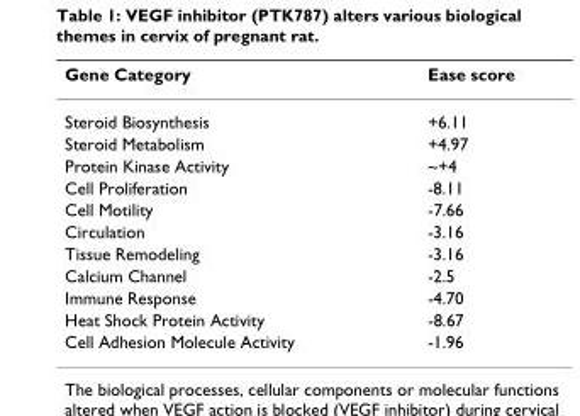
<table><thead><tr><td>Gene Category</td><td>Ease score</td></tr></thead><tbody><tr><td>Steroid Biosynthesis</td><td>+6.11</td></tr><tr><td>Steroid Metabolism</td><td>+4.97</td></tr><tr><td>Protein Kinase Activity</td><td>~+4</td></tr><tr><td>Cell Proliferation</td><td>-8.11</td></tr><tr><td>Cell Motility</td><td>-7.66</td></tr><tr><td>Circulation</td><td>-3.16</td></tr><tr><td>Tissue Remodeling</td><td>-3.16</td></tr><tr><td>Calcium Channel</td><td>-2.5</td></tr><tr><td>Immune Response</td><td>-4.70</td></tr><tr><td>Heat Shock Protein Activity</td><td>-8.67</td></tr><tr><td>Cell Adhesion Molecule Activity</td><td>-1.96</td></tr></tbody></table>